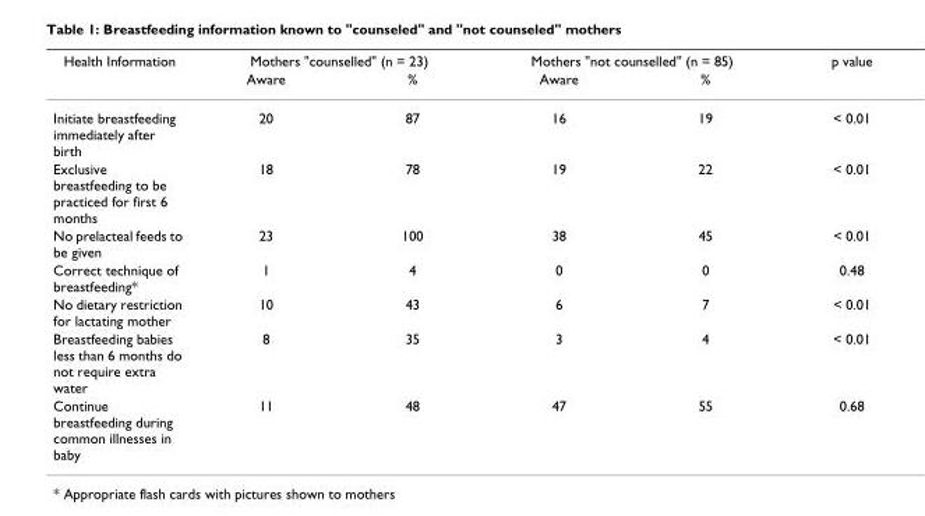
<table><thead><tr><td rowspan="2">Health Information</td><td colspan="2">Mothers &quot;counselled&quot; (n = 23)</td><td colspan="2">Mothers &quot;not counselled&quot; (n = 85)</td><td rowspan="2">p value</td></tr><tr><td>Aware</td><td>%</td><td>Aware</td><td>%</td></tr></thead><tbody><tr><td>Initiate breastfeeding immediately after birth</td><td>20</td><td>87</td><td>16</td><td>19</td><td>&lt; 0.01</td></tr><tr><td>Exclusive breastfeeding to be practiced for first 6 months</td><td>18</td><td>78</td><td>19</td><td>22</td><td>&lt; 0.01</td></tr><tr><td>No prelacteal feeds to be given</td><td>23</td><td>100</td><td>38</td><td>45</td><td>&lt; 0.01</td></tr><tr><td>Correct technique of breastfeeding*</td><td>1</td><td>4</td><td>0</td><td>0</td><td>0.48</td></tr><tr><td>No dietary restriction for lactating mother</td><td>10</td><td>43</td><td>6</td><td>7</td><td>&lt; 0.01</td></tr><tr><td>Breastfeeding babies less than 6 months do not require extra water</td><td>8</td><td>35</td><td>3</td><td>4</td><td>&lt; 0.01</td></tr><tr><td>Continue breastfeeding during common illnesses in baby</td><td>11</td><td>48</td><td>47</td><td>55</td><td>0.68</td></tr></tbody></table>